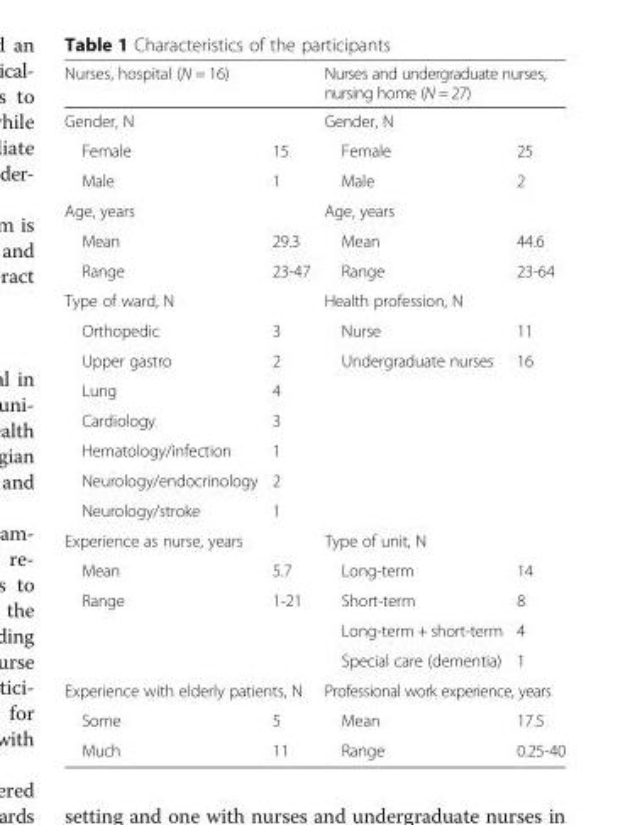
<table><thead><tr><td rowspan="2" colspan="2">Nurses, hospital (N = 16) Gender, N</td><td rowspan="2" colspan="2">Nurses and undergraduate nurses, nursing home (N = 27) Gender, N</td></tr><tr></tr><tr><td>Female</td><td>15</td><td>Female</td><td>25</td></tr></thead><tbody><tr><td>Male</td><td>1</td><td>Male</td><td>2</td></tr><tr><td colspan="2">Age, years</td><td colspan="2">Age, years</td></tr><tr><td>Mean</td><td>29.3</td><td>Mean</td><td>44.6</td></tr><tr><td>Range</td><td>23-47</td><td>Range</td><td>23-64</td></tr><tr><td colspan="2">Type of ward, N</td><td colspan="2">Health profession, N</td></tr><tr><td>Orthopedic</td><td>3</td><td>Nurse</td><td>11</td></tr><tr><td>Upper gastro</td><td>2</td><td>Undergraduate nurses</td><td>16</td></tr><tr><td>Lung</td><td>4</td><td></td><td></td></tr><tr><td>Cardiology</td><td>3</td><td></td><td></td></tr><tr><td>Hematology/infection</td><td>1</td><td></td><td></td></tr><tr><td>Neurology/endocrinology</td><td>2</td><td></td><td></td></tr><tr><td>Neurology/stroke</td><td>1</td><td></td><td></td></tr><tr><td colspan="2">Experience as nurse, years</td><td colspan="2">Type of unit, N</td></tr><tr><td>Mean</td><td>5.7</td><td>Long-term</td><td>14</td></tr><tr><td rowspan="3">Range</td><td>1-21</td><td>Short-term</td><td>8</td></tr><tr><td rowspan="2"></td><td>Long-term + short-term</td><td>4</td></tr><tr><td>Special care (dementia)</td><td>1</td></tr><tr><td colspan="2">Experience with elderly patients, N</td><td colspan="2">Professional work experience, years</td></tr><tr><td>Some</td><td>5</td><td>Mean</td><td>17.5</td></tr><tr><td>Much</td><td>11</td><td>Range</td><td>0.25-40</td></tr></tbody></table>